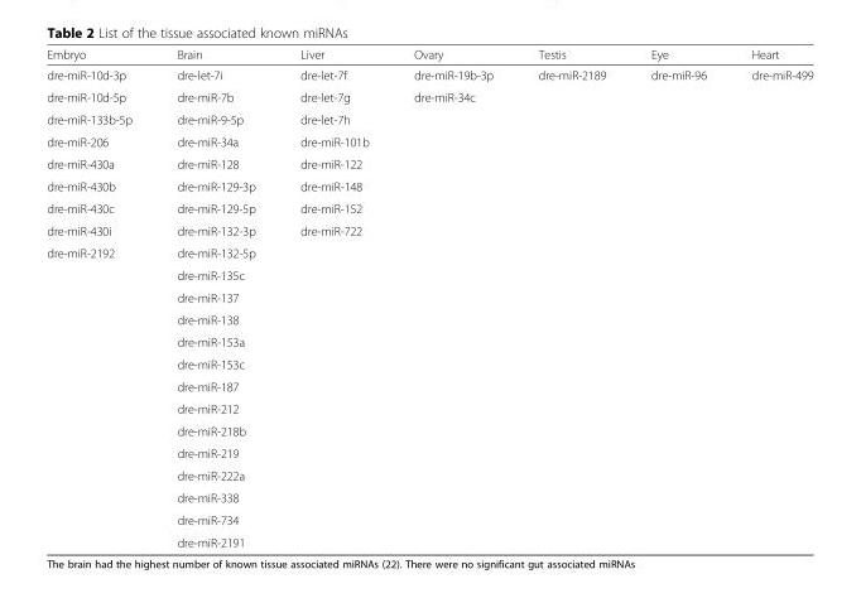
<table><thead><tr><td>Embryo</td><td>Brain</td><td>Liver</td><td>Ovary</td><td>Testis</td><td>Eye</td><td>Heart</td></tr></thead><tbody><tr><td>dre-miR-10d-3p</td><td>dre-let-7i</td><td>dre-let-7f</td><td>dre-miR-19b-3p</td><td>dre-miR-2189</td><td>dre-miR-96</td><td>dre-miR-499</td></tr><tr><td>dre-miR-10d-5p</td><td>dre-miR-7b</td><td>dre-let-7g</td><td>dre-miR-34c</td><td></td><td></td><td></td></tr><tr><td>dre-miR-133b-5p</td><td>dre-miR-9-5p</td><td>dre-let-7h</td><td></td><td></td><td></td><td></td></tr><tr><td>dre-miR-206</td><td>dre-miR-34a</td><td>dre-miR-101b</td><td></td><td></td><td></td><td></td></tr><tr><td>dre-miR-430a</td><td>dre-miR-128</td><td>dre-miR-122</td><td></td><td></td><td></td><td></td></tr><tr><td>dre-miR-430b</td><td>dre-miR-129-3p</td><td>dre-miR-148</td><td></td><td></td><td></td><td></td></tr><tr><td>dre-miR-430c</td><td>dre-miR-129-5p</td><td>dre-miR-152</td><td></td><td></td><td></td><td></td></tr><tr><td>dre-miR-430i</td><td>dre-miR-132-3p</td><td>dre-miR-722</td><td></td><td></td><td></td><td></td></tr><tr><td rowspan="14">dre-miR-2192</td><td>dre-miR-132-5p</td><td></td><td></td><td></td><td></td><td></td></tr><tr><td>dre-miR-135c</td><td></td><td></td><td></td><td></td><td></td></tr><tr><td>dre-miR-137</td><td></td><td></td><td></td><td></td><td></td></tr><tr><td>dre-miR-138</td><td></td><td></td><td></td><td></td><td></td></tr><tr><td>dre-miR-153a</td><td></td><td></td><td></td><td></td><td rowspan="2"></td></tr><tr><td>dre-miR-153c</td><td></td><td></td><td></td><td></td></tr><tr><td>dre-miR-187</td><td></td><td></td><td></td><td></td><td></td></tr><tr><td>dre-miR-212</td><td></td><td></td><td></td><td></td><td></td></tr><tr><td>dre-miR-218b</td><td></td><td></td><td></td><td></td><td></td></tr><tr><td>dre-miR-219</td><td></td><td></td><td></td><td></td><td></td></tr><tr><td>dre-miR-222a</td><td></td><td></td><td></td><td></td><td></td></tr><tr><td>dre-miR-338</td><td></td><td></td><td></td><td></td><td></td></tr><tr><td>dre-miR-734</td><td></td><td></td><td></td><td></td><td></td></tr><tr><td>dre-miR-2191</td><td></td><td></td><td></td><td></td><td></td></tr></tbody></table>